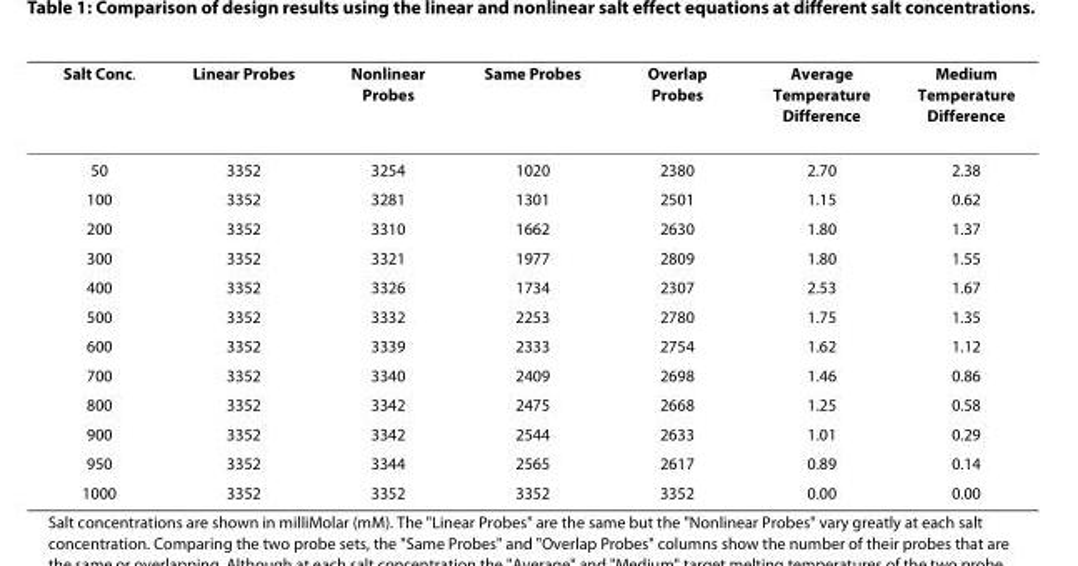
<table><thead><tr><td>Salt Conc.</td><td>Linear Probes</td><td>Nonlinear Probes</td><td>Same Probes</td><td>Overlap Probes</td><td>Average Temperature Difference</td><td>Medium Temperature Difference</td></tr></thead><tbody><tr><td>50</td><td>3352</td><td>3254</td><td>1020</td><td>2380</td><td>2.70</td><td>2.38</td></tr><tr><td>100</td><td>3352</td><td>3281</td><td>1301</td><td>2501</td><td>1.15</td><td>0.62</td></tr><tr><td>200</td><td>3352</td><td>3310</td><td>1662</td><td>2630</td><td>1.80</td><td>1.37</td></tr><tr><td>300</td><td>3352</td><td>3321</td><td>1977</td><td>2809</td><td>1.80</td><td>1.55</td></tr><tr><td>400</td><td>3352</td><td>3326</td><td>1734</td><td>2307</td><td>2.53</td><td>1.67</td></tr><tr><td>500</td><td>3352</td><td>3332</td><td>2253</td><td>2780</td><td>1.75</td><td>1.35</td></tr><tr><td>600</td><td>3352</td><td>3339</td><td>2333</td><td>2754</td><td>1.62</td><td>1.12</td></tr><tr><td>700</td><td>3352</td><td>3340</td><td>2409</td><td>2698</td><td>1.46</td><td>0.86</td></tr><tr><td>800</td><td>3352</td><td>3342</td><td>2475</td><td>2668</td><td>1.25</td><td>0.58</td></tr><tr><td>900</td><td>3352</td><td>3342</td><td>2544</td><td>2633</td><td>1.01</td><td>0.29</td></tr><tr><td>950</td><td>3352</td><td>3344</td><td>2565</td><td>2617</td><td>0.89</td><td>0.14</td></tr><tr><td>1000</td><td>3352</td><td>3352</td><td>3352</td><td>3352</td><td>0.00</td><td>0.00</td></tr></tbody></table>